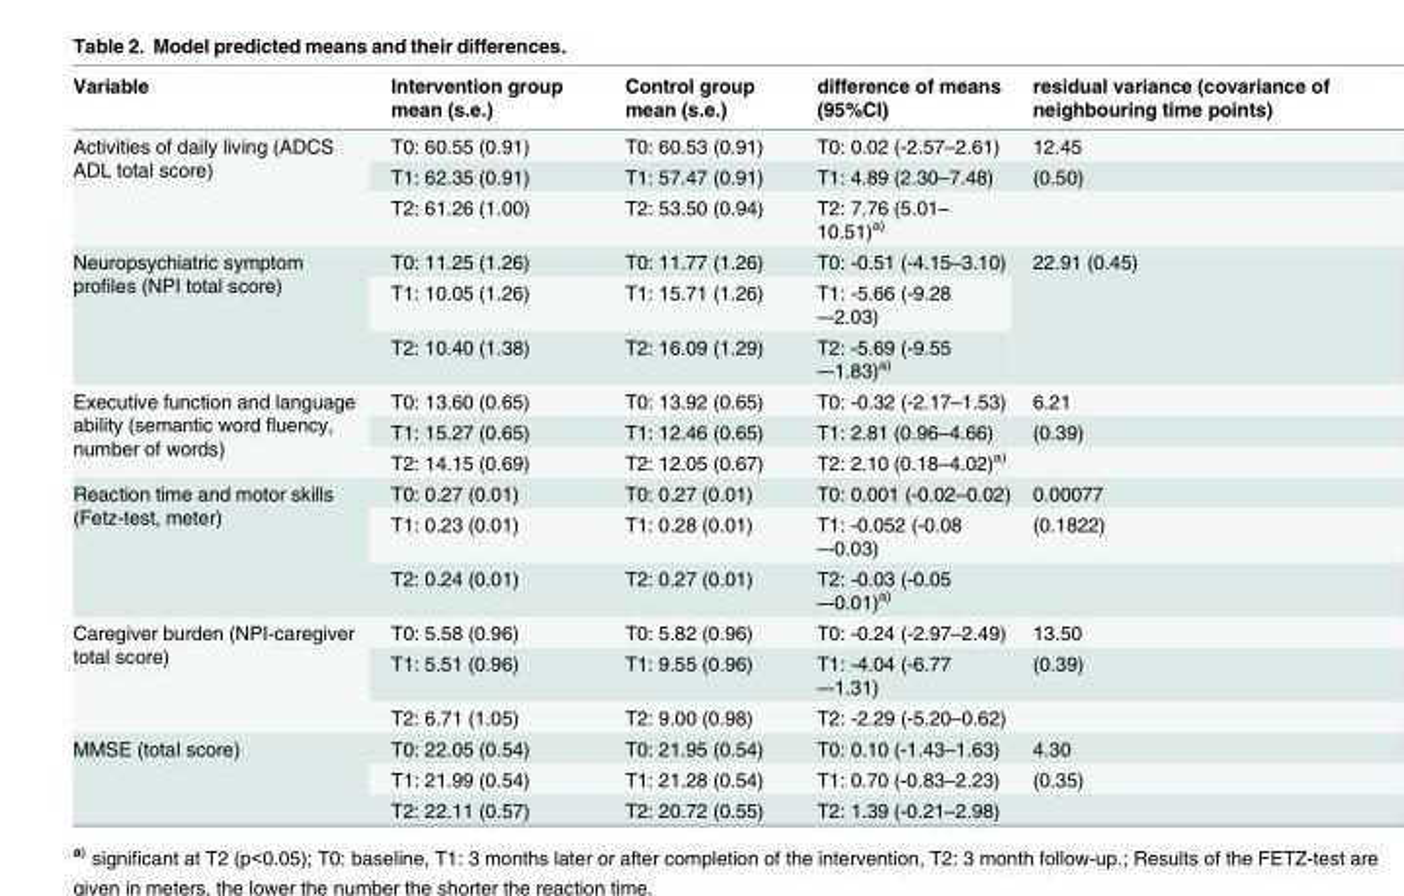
<table><thead><tr><td>Variable</td><td>Intervention group mean (s.e.)</td><td>Control group mean (s.e.)</td><td>difference of means (95%CI)</td><td>residual variance (covariance of neighbouring time points)</td></tr></thead><tbody><tr><td rowspan="3">Activities of daily living (ADCS ADL total score)</td><td>T0: 60.55 (0.91)</td><td>T0: 60.53 (0.91)</td><td>T0: 0.02 (-2.57–2.61)</td><td>12.45</td></tr><tr><td>T1: 62.35 (0.91)</td><td>T1: 57.47 (0.91)</td><td>T1: 4.89 (2.30–7.48)</td><td>(0.50)</td></tr><tr><td>T2: 61.26 (1.00)</td><td>T2: 53.50 (0.94)</td><td>T2: 7.76 (5.01– 10.51)<sup>a)</sup></td><td></td></tr><tr><td rowspan="3">Neuropsychiatric symptom profiles (NPI total score)</td><td>T0: 11.25 (1.26)</td><td>T0: 11.77 (1.26)</td><td>T0: -0.51 (-4.15–3.10)</td><td rowspan="3">22.91 (0.45)</td></tr><tr><td>T1: 10.05 (1.26)</td><td>T1: 15.71 (1.26)</td><td>T1: -5.66 (-9.28 –-2.03)</td></tr><tr><td>T2: 10.40 (1.38)</td><td>T2: 16.09 (1.29)</td><td>T2: -5.69 (-9.55 –-1.83)<sup>a)</sup></td></tr><tr><td rowspan="3">Executive function and language ability (semantic word fluency, number of words)</td><td>T0: 13.60 (0.65)</td><td>T0: 13.92 (0.65)</td><td>T0: -0.32 (-2.17–1.53)</td><td>6.21</td></tr><tr><td>T1: 15.27 (0.65)</td><td>T1: 12.46 (0.65)</td><td>T1: 2.81 (0.96–4.66)</td><td>(0.39)</td></tr><tr><td>T2: 14.15 (0.69)</td><td>T2: 12.05 (0.67)</td><td>T2: 2.10 (0.18–4.02)<sup>a)</sup></td><td></td></tr><tr><td rowspan="3">Reaction time and motor skills (Fetz-test, meter)</td><td>T0: 0.27 (0.01)</td><td>T0: 0.27 (0.01)</td><td>T0: 0.001 (-0.02–0.02)</td><td>0.00077</td></tr><tr><td>T1: 0.23 (0.01)</td><td>T1: 0.28 (0.01)</td><td>T1: -0.052 (-0.08 –-0.03)</td><td>(0.1822)</td></tr><tr><td>T2: 0.24 (0.01)</td><td>T2: 0.27 (0.01)</td><td>T2: -0.03 (-0.05 –-0.01)<sup>a)</sup></td><td></td></tr><tr><td rowspan="3">Caregiver burden (NPI-caregiver total score)</td><td>T0: 5.58 (0.96)</td><td>T0: 5.82 (0.96)</td><td>T0: -0.24 (-2.97–2.49)</td><td>13.50</td></tr><tr><td>T1: 5.51 (0.96)</td><td>T1: 9.55 (0.96)</td><td>T1: -4.04 (-6.77 –-1.31)</td><td>(0.39)</td></tr><tr><td>T2: 6.71 (1.05)</td><td>T2: 9.00 (0.98)</td><td>T2: -2.29 (-5.20–0.62)</td><td></td></tr><tr><td rowspan="3">MMSE (total score)</td><td>T0: 22.05 (0.54)</td><td>T0: 21.95 (0.54)</td><td>T0: 0.10 (-1.43–1.63)</td><td>4.30</td></tr><tr><td>T1: 21.99 (0.54)</td><td>T1: 21.28 (0.54)</td><td>T1: 0.70 (-0.83–2.23)</td><td>(0.35)</td></tr><tr><td>T2: 22.11 (0.57)</td><td>T2: 20.72 (0.55)</td><td>T2: 1.39 (-0.21–2.98)</td><td></td></tr></tbody></table>